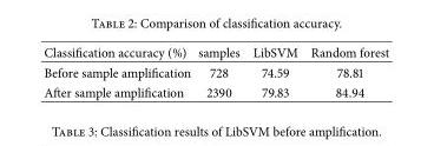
<table><thead><tr><td>Classification accuracy (%)</td><td>samples</td><td>LibSVM</td><td>Random forest</td></tr></thead><tbody><tr><td>Before sample amplification</td><td>728</td><td>74.59</td><td>78.81</td></tr><tr><td>After sample amplification</td><td>2390</td><td>79.83</td><td>84.94</td></tr></tbody></table>